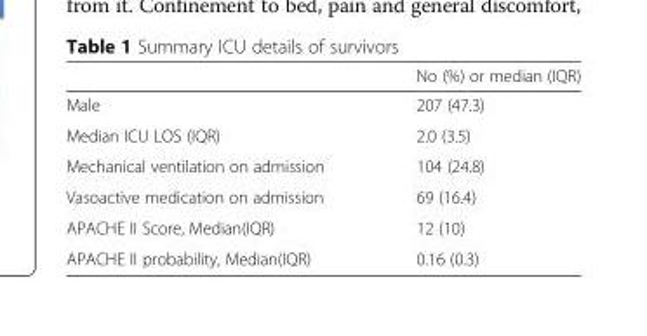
<table><thead><tr><td></td><td>No (%) or median (IQR)</td></tr></thead><tbody><tr><td>Male</td><td>207 (47.3)</td></tr><tr><td>Median ICU LOS (IQR)</td><td>2.0 (3.5)</td></tr><tr><td>Mechanical ventilation on admission</td><td>104 (24.8)</td></tr><tr><td>Vasoactive medication on admission</td><td>69 (16.4)</td></tr><tr><td>APACHE II Score, Median(IQR)</td><td>12 (10)</td></tr><tr><td>APACHE II probability, Median(IQR)</td><td>0.16 (0.3)</td></tr></tbody></table>